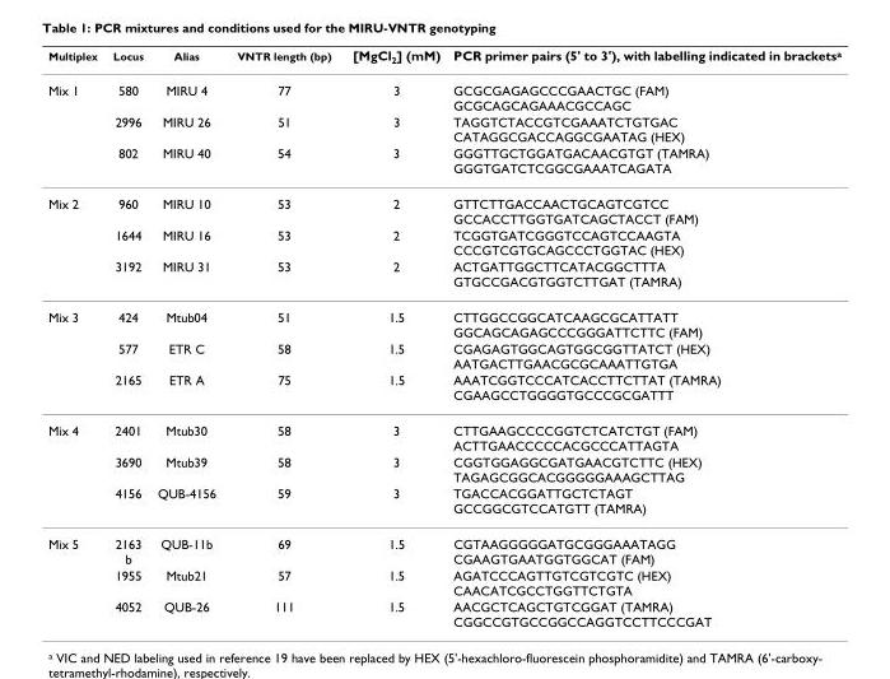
<table><thead><tr><td>Multiplex</td><td>Locus</td><td>Alias</td><td>VNTR length (bp)</td><td>[MgCl<sub>2</sub>] (mM)</td><td>PCR primer pairs (5&#x27; to 3&#x27;), with labelling indicated in brackets<sup>a</sup></td></tr></thead><tbody><tr><td rowspan="3">Mix 1</td><td>580</td><td>MIRU 4</td><td>77</td><td>3</td><td>GCGCGAGAGCCCGAACTGC (FAM) GCGCAGCAGAAACGCCAGC</td></tr><tr><td>2996</td><td>MIRU 26</td><td>51</td><td>3</td><td>TAGGTCTACCGTCGAAATCTGTGAC CATAGGCGACCAGGCGAATAG (HEX)</td></tr><tr><td>802</td><td>MIRU 40</td><td>54</td><td>3</td><td>GGGTTGCTGGATGACAACGTGT (TAMRA) GGGTGATCTCGGCGAAATCAGATA</td></tr><tr><td rowspan="3">Mix 2</td><td>960</td><td>MIRU 10</td><td>53</td><td>2</td><td>GTTCTTGACCAACTGCAGTCGTCC GCCACCTTGGTGATCAGCTACCT (FAM)</td></tr><tr><td>1644</td><td>MIRU 16</td><td>53</td><td>2</td><td>TCGGTGATCGGGTCCAGTCCAAGTA CCCGTCGTGCAGCCCTGGTAC (HEX)</td></tr><tr><td>3192</td><td>MIRU 31</td><td>53</td><td>2</td><td>ACTGATTGGCTTCATACGGCTTTA GTGCCGACGTGGTCTTGAT (TAMRA)</td></tr><tr><td rowspan="3">Mix 3</td><td>424</td><td>Mtub04</td><td>51</td><td>1.5</td><td>CTTGGCCGGCATCAAGCGCATTATT GGCAGCAGAGCCCGGGATTCTTC (FAM)</td></tr><tr><td>577</td><td>ETR C</td><td>58</td><td>1.5</td><td>CGAGAGTGGCAGTGGCGGTTATCT (HEX) AATGACTTGAACGCGCAAATTGTGA</td></tr><tr><td>2165</td><td>ETR A</td><td>75</td><td>1.5</td><td>AAATCGGTCCCATCACCTTCTTAT (TAMRA) CGAAGCCTGGGGTGCCCGCGATTT</td></tr><tr><td rowspan="3">Mix 4</td><td>2401</td><td>Mtub30</td><td>58</td><td>3</td><td>CTTGAAGCCCCGGTCTCATCTGT (FAM) ACTTGAACCCCCACGCCCATTAGTA</td></tr><tr><td>3690</td><td>Mtub39</td><td>58</td><td>3</td><td>CGGTGGAGGCGATGAACGTCTTC (HEX) TAGAGCGGCACGGGGGAAAGCTTAG</td></tr><tr><td>4156</td><td>QUB-4156</td><td>59</td><td>3</td><td>TGACCACGGATTGCTCTAGT GCCGGCGTCCATGTT (TAMRA)</td></tr><tr><td rowspan="3">Mix 5</td><td>2163 b</td><td>QUB-11b</td><td>69</td><td>1.5</td><td>CGTAAGGGGGATGCGGGAAATAGG CGAAGTGAATGGTGGCAT (FAM)</td></tr><tr><td>1955</td><td>Mtub21</td><td>57</td><td>1.5</td><td>AGATCCCAGTTGTCGTCGTC (HEX) CAACATCGCCTGGTTCTGTA</td></tr><tr><td>4052</td><td>QUB-26</td><td>111</td><td>1.5</td><td>AACGCTCAGCTGTCGGAT (TAMRA) CGGCCGTGCCGGCCAGGTCCTTCCCGAT</td></tr></tbody></table>